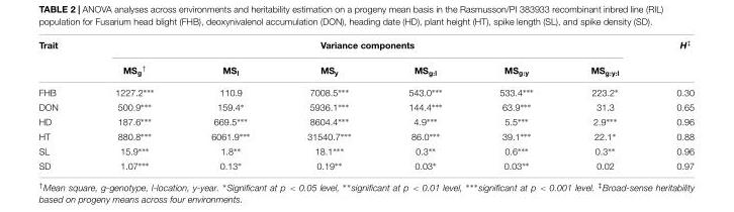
<table><thead><tr><td rowspan="2">Trait</td><td colspan="6">Variance components</td><td rowspan="2">H<sup>‡</sup></td></tr><tr><td>MS<sub>g</sub><sup>†</sup></td><td>MS<sub>l</sub></td><td>MS<sub>y</sub></td><td>MS<sub>g:l</sub></td><td>MS<sub>g:y</sub></td><td>MS<sub>g:y:l</sub></td></tr></thead><tbody><tr><td>FHB</td><td>1227.2∗∗∗</td><td>110.9</td><td>7008.5∗∗∗</td><td>543.0∗∗∗</td><td>533.4∗∗∗</td><td>223.2∗</td><td>0.30</td></tr><tr><td>DON</td><td>500.9∗∗∗</td><td>159.4∗</td><td>5936.1∗∗∗</td><td>144.4∗∗∗</td><td>63.9∗∗∗</td><td>31.3</td><td>0.65</td></tr><tr><td>HD</td><td>187.6∗∗∗</td><td>669.5∗∗∗</td><td>8604.4∗∗∗</td><td>4.9∗∗∗</td><td>5.5∗∗∗</td><td>2.9∗∗∗</td><td>0.96</td></tr><tr><td>HT</td><td>880.8∗∗∗</td><td>6061.9∗∗∗</td><td>31540.7∗∗∗</td><td>86.0∗∗∗</td><td>39.1∗∗∗</td><td>22.1∗</td><td>0.88</td></tr><tr><td>SL</td><td>15.9∗∗∗</td><td>1.8∗∗</td><td>18.1∗∗∗</td><td>0.3∗∗</td><td>0.6∗∗∗</td><td>0.3∗∗</td><td>0.96</td></tr><tr><td>SD</td><td>1.07∗∗∗</td><td>0.13∗</td><td>0.19∗∗</td><td>0.03∗</td><td>0.03∗∗</td><td>0.02</td><td>0.97</td></tr></tbody></table>